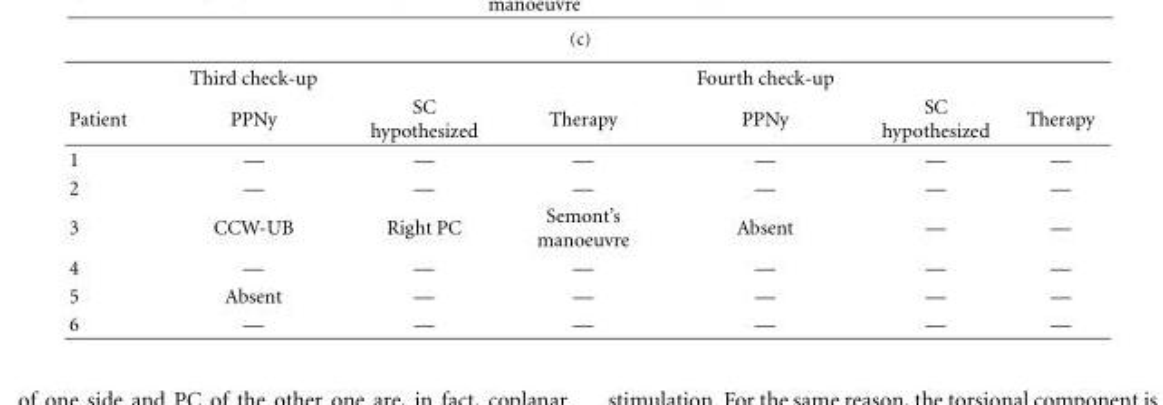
<table><thead><tr><td rowspan="2">Patient</td><td rowspan="2">Third check-up PPNy</td><td rowspan="2">SC hypothesized</td><td rowspan="2">Therapy</td><td rowspan="2">Fourth check-up PPNy</td><td rowspan="2">SC hypothesized</td><td rowspan="2">Therapy</td></tr><tr></tr></thead><tbody><tr><td>1</td><td>—</td><td>—</td><td>—</td><td>—</td><td>—</td><td>—</td></tr><tr><td>2</td><td>—</td><td>—</td><td>—</td><td>—</td><td>—</td><td>—</td></tr><tr><td>3</td><td>CCW-UB</td><td>Right PC</td><td>Semont’s manoeuvre</td><td>Absent</td><td>—</td><td>—</td></tr><tr><td>4</td><td>—</td><td>—</td><td>—</td><td>—</td><td>—</td><td>—</td></tr><tr><td>5</td><td>Absent</td><td>—</td><td>—</td><td>—</td><td>—</td><td>—</td></tr><tr><td>6</td><td>—</td><td>—</td><td>—</td><td>—</td><td>—</td><td>—</td></tr></tbody></table>